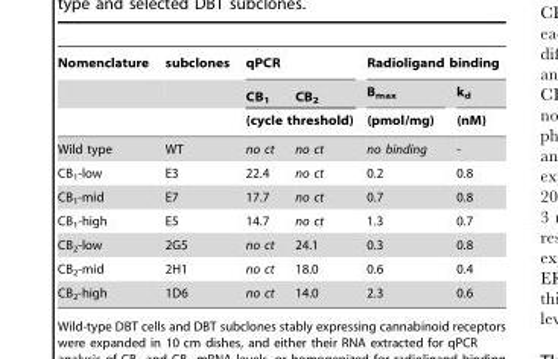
<table><thead><tr><td rowspan="3">Nomenclature</td><td rowspan="3">subclones</td><td colspan="2">qPCR</td><td colspan="2">Radioligand binding</td></tr><tr><td>CB<sub>1</sub></td><td>CB<sub>2</sub></td><td rowspan="2">B<sub>max</sub> (pmol/mg)</td><td rowspan="2">k<sub>d</sub> (nM)</td></tr><tr><td colspan="2">(cycle threshold)</td></tr></thead><tbody><tr><td>Wild type</td><td>WT</td><td>no ct</td><td>no ct</td><td>no binding</td><td>-</td></tr><tr><td>CB<sub>1</sub>-low</td><td>E3</td><td>22.4</td><td>no ct</td><td>0.2</td><td>0.8</td></tr><tr><td>CB<sub>1</sub>-mid</td><td>E7</td><td>17.7</td><td>no ct</td><td>0.7</td><td>0.8</td></tr><tr><td>CB<sub>1</sub>-high</td><td>E5</td><td>14.7</td><td>no ct</td><td>1.3</td><td>0.7</td></tr><tr><td>CB<sub>2</sub>-low</td><td>2G5</td><td>no ct</td><td>24.1</td><td>0.3</td><td>0.8</td></tr><tr><td>CB<sub>2</sub>-mid</td><td>2H1</td><td>no ct</td><td>18.0</td><td>0.6</td><td>0.4</td></tr><tr><td>CB<sub>2</sub>-high</td><td>1D6</td><td>no ct</td><td>14.0</td><td>2.3</td><td>0.6</td></tr></tbody></table>